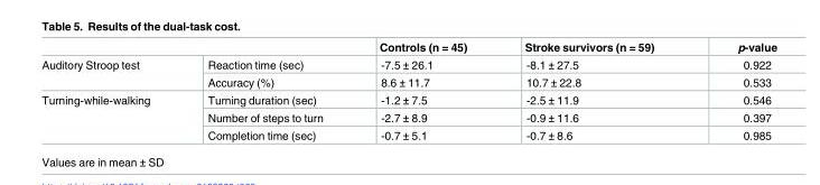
<table><thead><tr><td></td><td></td><td>Controls (n = 45)</td><td>Stroke survivors (n = 59)</td><td>p-value</td></tr></thead><tbody><tr><td rowspan="2">Auditory Stroop test</td><td>Reaction time (sec)</td><td>-7.5 ± 26.1</td><td>-8.1 ± 27.5</td><td>0.922</td></tr><tr><td>Accuracy (%)</td><td>8.6 ± 11.7</td><td>10.7 ± 22.8</td><td>0.533</td></tr><tr><td rowspan="3">Turning-while-walking</td><td>Turning duration (sec)</td><td>-1.2 ± 7.5</td><td>-2.5 ± 11.9</td><td>0.546</td></tr><tr><td>Number of steps to turn</td><td>-2.7 ± 8.9</td><td>-0.9 ± 11.6</td><td>0.397</td></tr><tr><td>Completion time (sec)</td><td>-0.7 ± 5.1</td><td>-0.7 ± 8.6</td><td>0.985</td></tr></tbody></table>